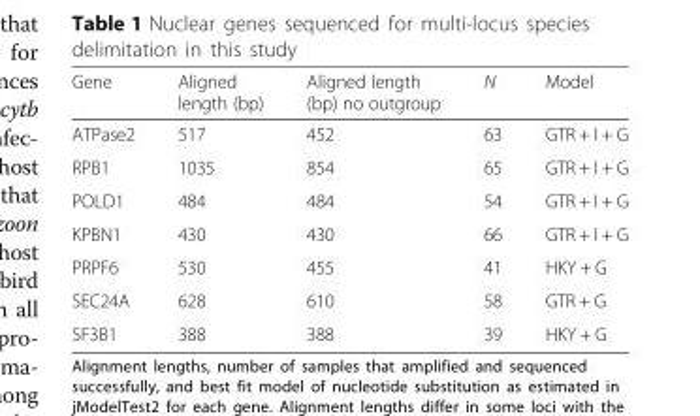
<table><thead><tr><td>Gene</td><td>Aligned length (bp)</td><td>Aligned length (bp) no outgroup</td><td>N</td><td>Model</td></tr></thead><tbody><tr><td>ATPase2</td><td>517</td><td>452</td><td>63</td><td>GTR + I + G</td></tr><tr><td>RPB1</td><td>1035</td><td>854</td><td>65</td><td>GTR + I + G</td></tr><tr><td>POLD1</td><td>484</td><td>484</td><td>54</td><td>GTR + I + G</td></tr><tr><td>KPBN1</td><td>430</td><td>430</td><td>66</td><td>GTR + I + G</td></tr><tr><td>PRPF6</td><td>530</td><td>455</td><td>41</td><td>HKY + G</td></tr><tr><td>SEC24A</td><td>628</td><td>610</td><td>58</td><td>GTR + G</td></tr><tr><td>SF3B1</td><td>388</td><td>388</td><td>39</td><td>HKY + G</td></tr></tbody></table>